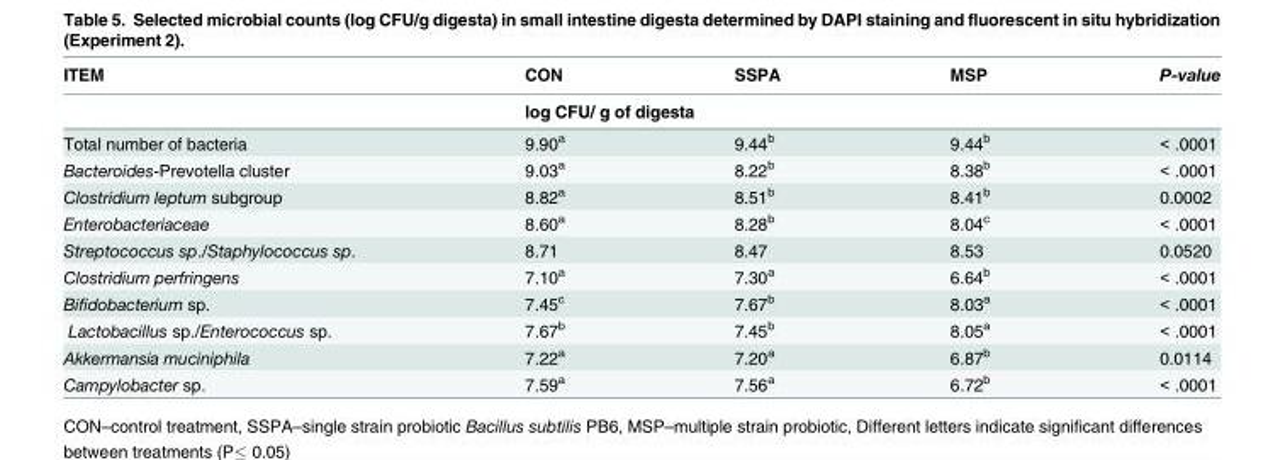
<table><thead><tr><td rowspan="2">ITEM</td><td>CON</td><td>SSPA</td><td rowspan="2">MSP</td><td rowspan="2">P-value</td></tr><tr><td colspan="2">log CFU/ g of digesta</td></tr></thead><tbody><tr><td>Total number of bacteria</td><td>9.90<sup>a</sup></td><td>9.44<sup>b</sup></td><td>9.44<sup>b</sup></td><td>&lt; .0001</td></tr><tr><td>Bacteroides-Prevotella cluster</td><td>9.03<sup>a</sup></td><td>8.22<sup>b</sup></td><td>8.38<sup>b</sup></td><td>&lt; .0001</td></tr><tr><td>Clostridium leptum subgroup</td><td>8.82<sup>a</sup></td><td>8.51<sup>b</sup></td><td>8.41<sup>b</sup></td><td>0.0002</td></tr><tr><td>Enterobacteriaceae</td><td>8.60<sup>a</sup></td><td>8.28<sup>b</sup></td><td>8.04<sup>c</sup></td><td>&lt; .0001</td></tr><tr><td>Streptococcus sp./Staphylococcus sp.</td><td>8.71</td><td>8.47</td><td>8.53</td><td>0.0520</td></tr><tr><td>Clostridium perfringens</td><td>7.10<sup>a</sup></td><td>7.30<sup>a</sup></td><td>6.64<sup>b</sup></td><td>&lt; .0001</td></tr><tr><td>Bifidobacterium sp.</td><td>7.45<sup>c</sup></td><td>7.67<sup>b</sup></td><td>8.03<sup>a</sup></td><td>&lt; .0001</td></tr><tr><td>Lactobacillus sp./Enterococcus sp.</td><td>7.67<sup>b</sup></td><td>7.45<sup>b</sup></td><td>8.05<sup>a</sup></td><td>&lt; .0001</td></tr><tr><td>Akkermansia muciniphila</td><td>7.22<sup>a</sup></td><td>7.20<sup>a</sup></td><td>6.87<sup>b</sup></td><td>0.0114</td></tr><tr><td>Campylobacter sp.</td><td>7.59<sup>a</sup></td><td>7.56<sup>a</sup></td><td>6.72<sup>b</sup></td><td>&lt; .0001</td></tr></tbody></table>